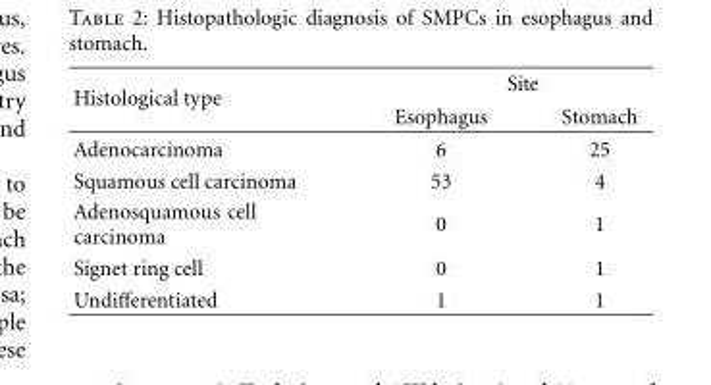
<table><thead><tr><td rowspan="2">Histological type</td><td colspan="2">Site</td></tr><tr><td>Esophagus</td><td>Stomach</td></tr></thead><tbody><tr><td>Adenocarcinoma</td><td>6</td><td>25</td></tr><tr><td>Squamous cell carcinoma</td><td>53</td><td>4</td></tr><tr><td>Adenosquamous cell carcinoma</td><td>0</td><td>1</td></tr><tr><td>Signet ring cell</td><td>0</td><td>1</td></tr><tr><td>Undifferentiated</td><td>1</td><td>1</td></tr></tbody></table>